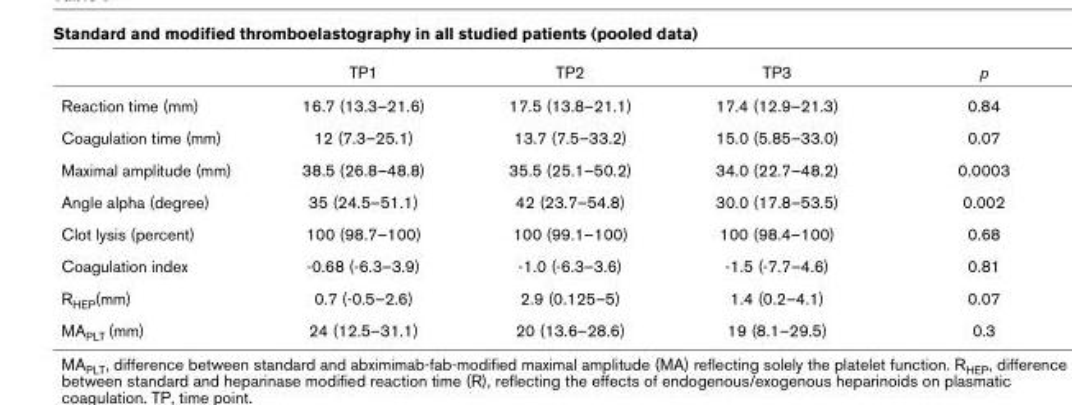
<table><thead><tr><td></td><td>TP1</td><td>TP2</td><td>TP3</td><td>p</td></tr></thead><tbody><tr><td>Reaction time (mm)</td><td>16.7 (13.3–21.6)</td><td>17.5 (13.8–21.1)</td><td>17.4 (12.9–21.3)</td><td>0.84</td></tr><tr><td>Coagulation time (mm)</td><td>12 (7.3–25.1)</td><td>13.7 (7.5–33.2)</td><td>15.0 (5.85–33.0)</td><td>0.07</td></tr><tr><td>Maximal amplitude (mm)</td><td>38.5 (26.8–48.8)</td><td>35.5 (25.1–50.2)</td><td>34.0 (22.7–48.2)</td><td>0.0003</td></tr><tr><td>Angle alpha (degree)</td><td>35 (24.5–51.1)</td><td>42 (23.7–54.8)</td><td>30.0 (17.8–53.5)</td><td>0.002</td></tr><tr><td>Clot lysis (percent)</td><td>100 (98.7–100)</td><td>100 (99.1–100)</td><td>100 (98.4–100)</td><td>0.68</td></tr><tr><td>Coagulation index</td><td>-0.68 (-6.3–3.9)</td><td>-1.0 (-6.3–3.6)</td><td>-1.5 (-7.7–4.6)</td><td>0.81</td></tr><tr><td>RHEP(mm)</td><td>0.7 (-0.5–2.6)</td><td>2.9 (0.125–5)</td><td>1.4 (0.2–4.1)</td><td>0.07</td></tr><tr><td>MAPLT (mm)</td><td>24 (12.5–31.1)</td><td>20 (13.6–28.6)</td><td>19 (8.1–29.5)</td><td>0.3</td></tr></tbody></table>